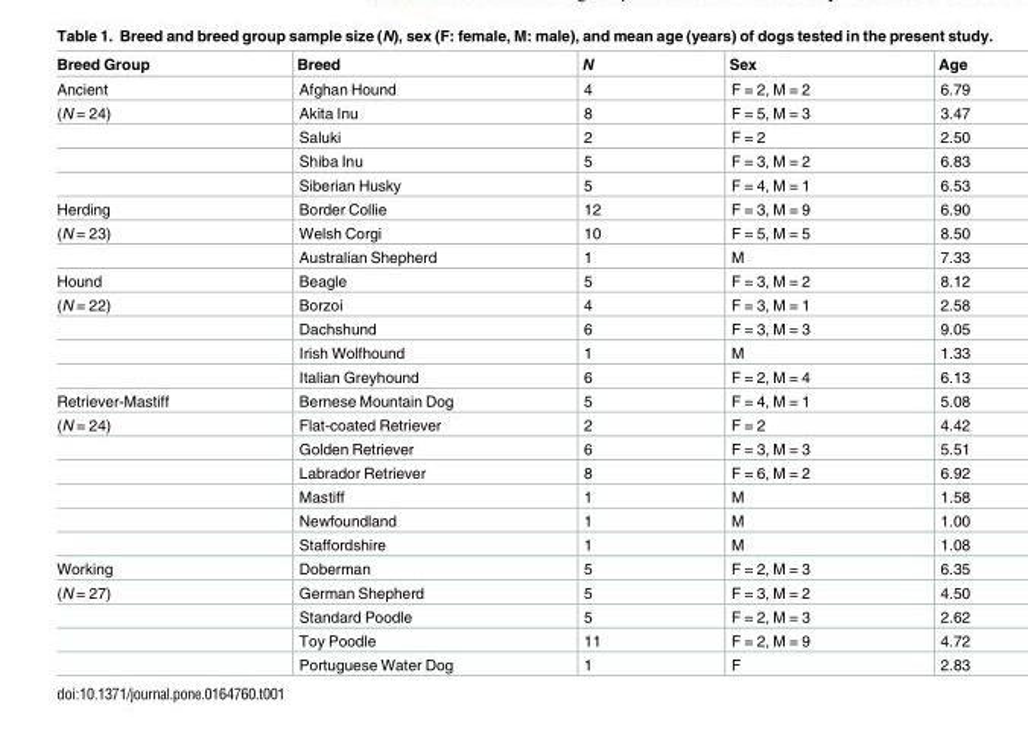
<table><thead><tr><td>Breed Group</td><td>Breed</td><td>N</td><td>Sex</td><td>Age</td></tr></thead><tbody><tr><td>Ancient</td><td>Afghan Hound</td><td>4</td><td>F = 2, M = 2</td><td>6.79</td></tr><tr><td rowspan="4">(N = 24)</td><td>Akita Inu</td><td>8</td><td>F = 5, M = 3</td><td>3.47</td></tr><tr><td>Saluki</td><td>2</td><td>F = 2</td><td>2.50</td></tr><tr><td>Shiba Inu</td><td>5</td><td>F = 3, M = 2</td><td>6.83</td></tr><tr><td>Siberian Husky</td><td>5</td><td>F = 4, M = 1</td><td>6.53</td></tr><tr><td>Herding</td><td>Border Collie</td><td>12</td><td>F = 3, M = 9</td><td>6.90</td></tr><tr><td rowspan="2">(N = 23)</td><td>Welsh Corgi</td><td>10</td><td>F = 5, M = 5</td><td>8.50</td></tr><tr><td>Australian Shepherd</td><td>1</td><td>M</td><td>7.33</td></tr><tr><td>Hound</td><td>Beagle</td><td>5</td><td>F = 3, M = 2</td><td>8.12</td></tr><tr><td rowspan="4">(N = 22)</td><td>Borzoi</td><td>4</td><td>F = 3, M = 1</td><td>2.58</td></tr><tr><td>Dachshund</td><td>6</td><td>F = 3, M = 3</td><td>9.05</td></tr><tr><td>Irish Wolfhound</td><td>1</td><td>M</td><td>1.33</td></tr><tr><td>Italian Greyhound</td><td>6</td><td>F = 2, M = 4</td><td>6.13</td></tr><tr><td>Retriever-Mastiff</td><td>Bernese Mountain Dog</td><td>5</td><td>F = 4, M = 1</td><td>5.08</td></tr><tr><td rowspan="6">(N = 24)</td><td>Flat-coated Retriever</td><td>2</td><td>F = 2</td><td>4.42</td></tr><tr><td>Golden Retriever</td><td>6</td><td>F = 3, M = 3</td><td>5.51</td></tr><tr><td>Labrador Retriever</td><td>8</td><td>F = 6, M = 2</td><td>6.92</td></tr><tr><td>Mastiff</td><td>1</td><td>M</td><td>1.58</td></tr><tr><td>Newfoundland</td><td>1</td><td>M</td><td>1.00</td></tr><tr><td>Staffordshire</td><td>1</td><td>M</td><td>1.08</td></tr><tr><td>Working</td><td>Doberman</td><td>5</td><td>F = 2, M = 3</td><td>6.35</td></tr><tr><td rowspan="4">(N = 27)</td><td>German Shepherd</td><td>5</td><td>F = 3, M = 2</td><td>4.50</td></tr><tr><td>Standard Poodle</td><td>5</td><td>F = 2, M = 3</td><td>2.62</td></tr><tr><td>Toy Poodle</td><td>11</td><td>F = 2, M = 9</td><td>4.72</td></tr><tr><td>Portuguese Water Dog</td><td>1</td><td>F</td><td>2.83</td></tr></tbody></table>